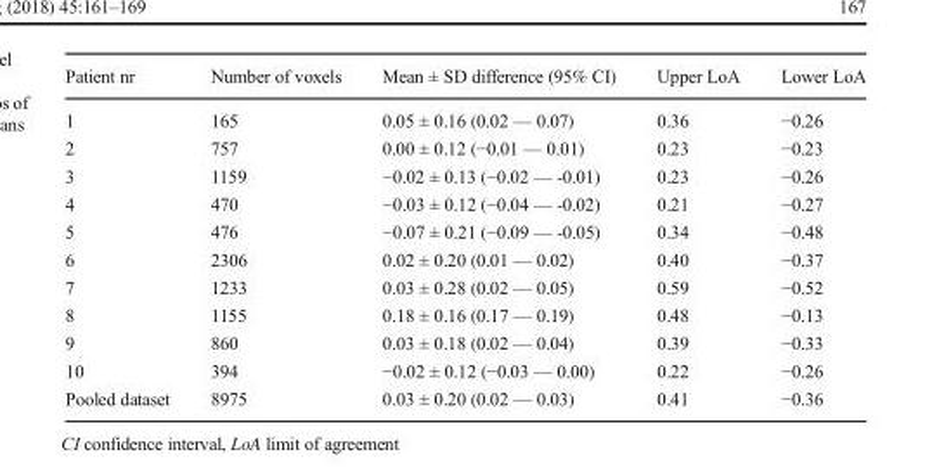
<table><thead><tr><td>Patient nr</td><td>Number of voxels</td><td>Mean ± SD difference (95% CI)</td><td>Upper LoA</td><td>Lower LoA</td></tr></thead><tbody><tr><td>1</td><td>165</td><td>0.05 ± 0.16 (0.02 — 0.07)</td><td>0.36</td><td>−0.26</td></tr><tr><td>2</td><td>757</td><td>0.00 ± 0.12 (−0.01 — 0.01)</td><td>0.23</td><td>−0.23</td></tr><tr><td>3</td><td>1159</td><td>−0.02 ± 0.13 (−0.02 — -0.01)</td><td>0.23</td><td>−0.26</td></tr><tr><td>4</td><td>470</td><td>−0.03 ± 0.12 (−0.04 — -0.02)</td><td>0.21</td><td>−0.27</td></tr><tr><td>5</td><td>476</td><td>−0.07 ± 0.21 (−0.09 — -0.05)</td><td>0.34</td><td>−0.48</td></tr><tr><td>6</td><td>2306</td><td>0.02 ± 0.20 (0.01 — 0.02)</td><td>0.40</td><td>−0.37</td></tr><tr><td>7</td><td>1233</td><td>0.03 ± 0.28 (0.02 — 0.05)</td><td>0.59</td><td>−0.52</td></tr><tr><td>8</td><td>1155</td><td>0.18 ± 0.16 (0.17 — 0.19)</td><td>0.48</td><td>−0.13</td></tr><tr><td>9</td><td>860</td><td>0.03 ± 0.18 (0.02 — 0.04)</td><td>0.39</td><td>−0.33</td></tr><tr><td>10</td><td>394</td><td>−0.02 ± 0.12 (−0.03 — 0.00)</td><td>0.22</td><td>−0.26</td></tr><tr><td>Pooled dataset</td><td>8975</td><td>0.03 ± 0.20 (0.02 — 0.03)</td><td>0.41</td><td>−0.36</td></tr></tbody></table>